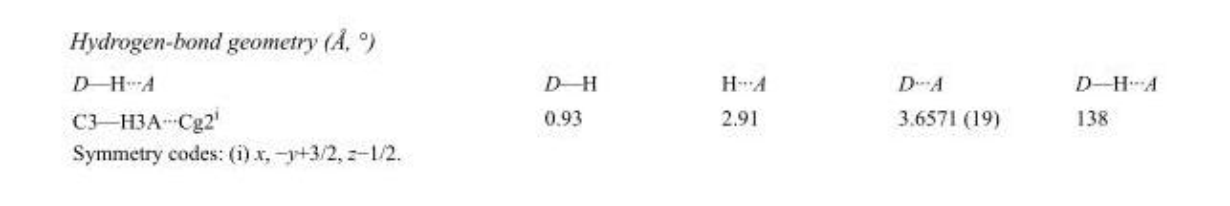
<table><tbody><tr><td>D—H···A</td><td>D—H</td><td>H···A</td><td>D···A</td><td>D—H···A</td></tr><tr><td>C3—H3A···Cg2<sup>i</sup></td><td>0.93</td><td>2.91</td><td>3.6571 (19)</td><td>138</td></tr></tbody></table>